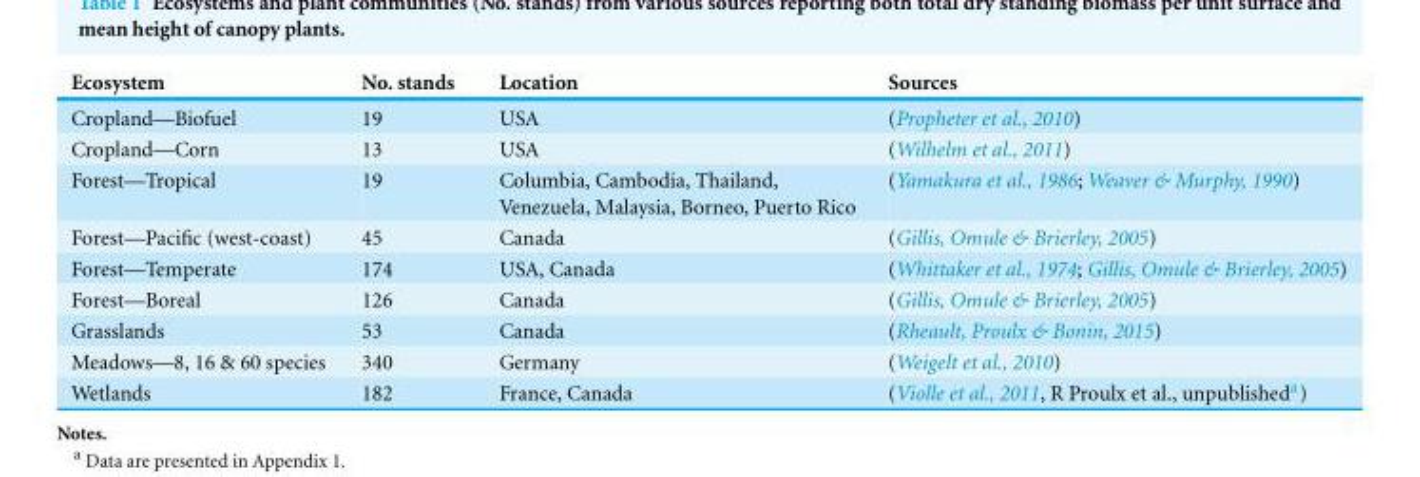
<table><thead><tr><td>Ecosystem</td><td>No. stands</td><td>Location</td><td>Sources</td></tr></thead><tbody><tr><td>Cropland—Biofuel</td><td>19</td><td>USA</td><td>(Propheter et al., 2010)</td></tr><tr><td>Cropland—Corn</td><td>13</td><td>USA</td><td>(Wilhelm et al., 2011)</td></tr><tr><td>Forest—Tropical</td><td>19</td><td>Columbia, Cambodia, Thailand, Venezuela, Malaysia, Borneo, Puerto Rico</td><td>(Yamakura et al., 1986; Weaver &amp; Murphy, 1990)</td></tr><tr><td>Forest—Pacific (west-coast)</td><td>45</td><td>Canada</td><td>(Gillis, Omule &amp; Brierley, 2005)</td></tr><tr><td>Forest—Temperate</td><td>174</td><td>USA, Canada</td><td>(Whittaker et al., 1974; Gillis, Omule &amp; Brierley, 2005)</td></tr><tr><td>Forest—Boreal</td><td>126</td><td>Canada</td><td>(Gillis, Omule &amp; Brierley, 2005)</td></tr><tr><td>Grasslands</td><td>53</td><td>Canada</td><td>(Rheault, Proulx &amp; Bonin, 2015)</td></tr><tr><td>Meadows—8, 16 &amp; 60 species</td><td>340</td><td>Germany</td><td>(Weigelt et al., 2010)</td></tr><tr><td>Wetlands</td><td>182</td><td>France, Canada</td><td>(Violle et al., 2011, R Proulx et al., unpublished<sup>a</sup>)</td></tr></tbody></table>